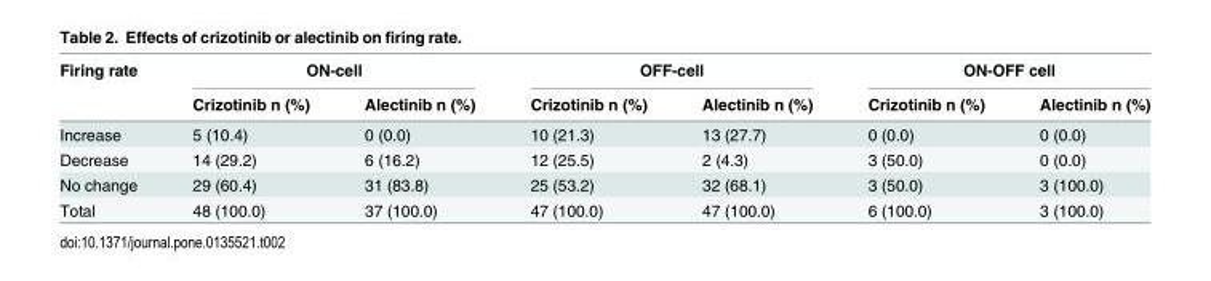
<table><thead><tr><td rowspan="2">Firing rate</td><td colspan="2">ON-cell</td><td colspan="2">OFF-cell</td><td colspan="2">ON-OFF cell</td></tr><tr><td>Crizotinib n (%)</td><td>Alectinib n (%)</td><td>Crizotinib n (%)</td><td>Alectinib n (%)</td><td>Crizotinib n (%)</td><td>Alectinib n (%)</td></tr></thead><tbody><tr><td>Increase</td><td>5 (10.4)</td><td>0 (0.0)</td><td>10 (21.3)</td><td>13 (27.7)</td><td>0 (0.0)</td><td>0 (0.0)</td></tr><tr><td>Decrease</td><td>14 (29.2)</td><td>6 (16.2)</td><td>12 (25.5)</td><td>2 (4.3)</td><td>3 (50.0)</td><td>0 (0.0)</td></tr><tr><td>No change</td><td>29 (60.4)</td><td>31 (83.8)</td><td>25 (53.2)</td><td>32 (68.1)</td><td>3 (50.0)</td><td>3 (100.0)</td></tr><tr><td>Total</td><td>48 (100.0)</td><td>37 (100.0)</td><td>47 (100.0)</td><td>47 (100.0)</td><td>6 (100.0)</td><td>3 (100.0)</td></tr></tbody></table>